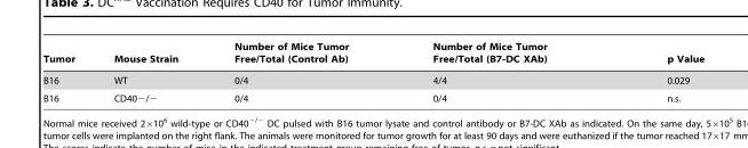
<table><thead><tr><td>Tumor</td><td>Mouse Strain</td><td>Number of Mice Tumor Free/Total (Control Ab)</td><td>Number of Mice Tumor Free/Total (B7-DC XAb)</td><td>p Value</td></tr></thead><tbody><tr><td>B16</td><td>WT</td><td>0/4</td><td>4/4</td><td>0.029</td></tr><tr><td>B16</td><td>CD40−/−</td><td>0/4</td><td>0/4</td><td>n.s.</td></tr></tbody></table>